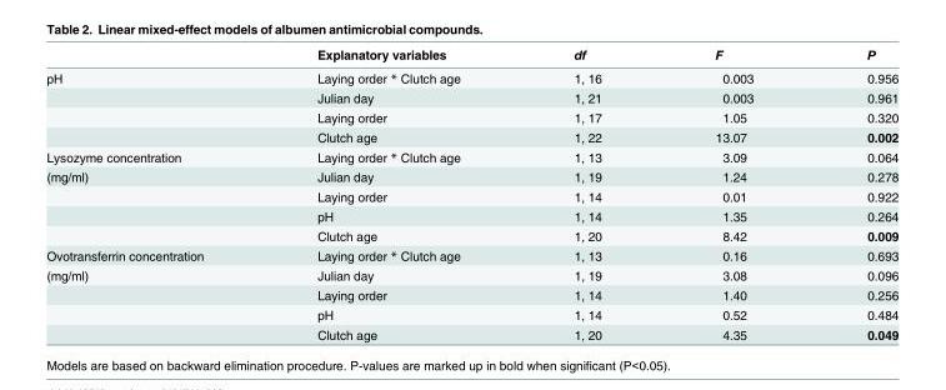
<table><thead><tr><td></td><td>Explanatory variables</td><td>df</td><td>F</td><td>P</td></tr></thead><tbody><tr><td rowspan="4">pH</td><td>Laying order * Clutch age</td><td>1, 16</td><td>0.003</td><td>0.956</td></tr><tr><td>Julian day</td><td>1, 21</td><td>0.003</td><td>0.961</td></tr><tr><td>Laying order</td><td>1, 17</td><td>1.05</td><td>0.320</td></tr><tr><td>Clutch age</td><td>1, 22</td><td>13.07</td><td>0.002</td></tr><tr><td>Lysozyme concentration</td><td>Laying order * Clutch age</td><td>1, 13</td><td>3.09</td><td>0.064</td></tr><tr><td rowspan="4">(mg/ml)</td><td>Julian day</td><td>1, 19</td><td>1.24</td><td>0.278</td></tr><tr><td>Laying order</td><td>1, 14</td><td>0.01</td><td>0.922</td></tr><tr><td>pH</td><td>1, 14</td><td>1.35</td><td>0.264</td></tr><tr><td>Clutch age</td><td>1, 20</td><td>8.42</td><td>0.009</td></tr><tr><td>Ovotransferrin concentration</td><td>Laying order * Clutch age</td><td>1, 13</td><td>0.16</td><td>0.693</td></tr><tr><td rowspan="4">(mg/ml)</td><td>Julian day</td><td>1, 19</td><td>3.08</td><td>0.096</td></tr><tr><td>Laying order</td><td>1, 14</td><td>1.40</td><td>0.256</td></tr><tr><td>pH</td><td>1, 14</td><td>0.52</td><td>0.484</td></tr><tr><td>Clutch age</td><td>1, 20</td><td>4.35</td><td>0.049</td></tr></tbody></table>